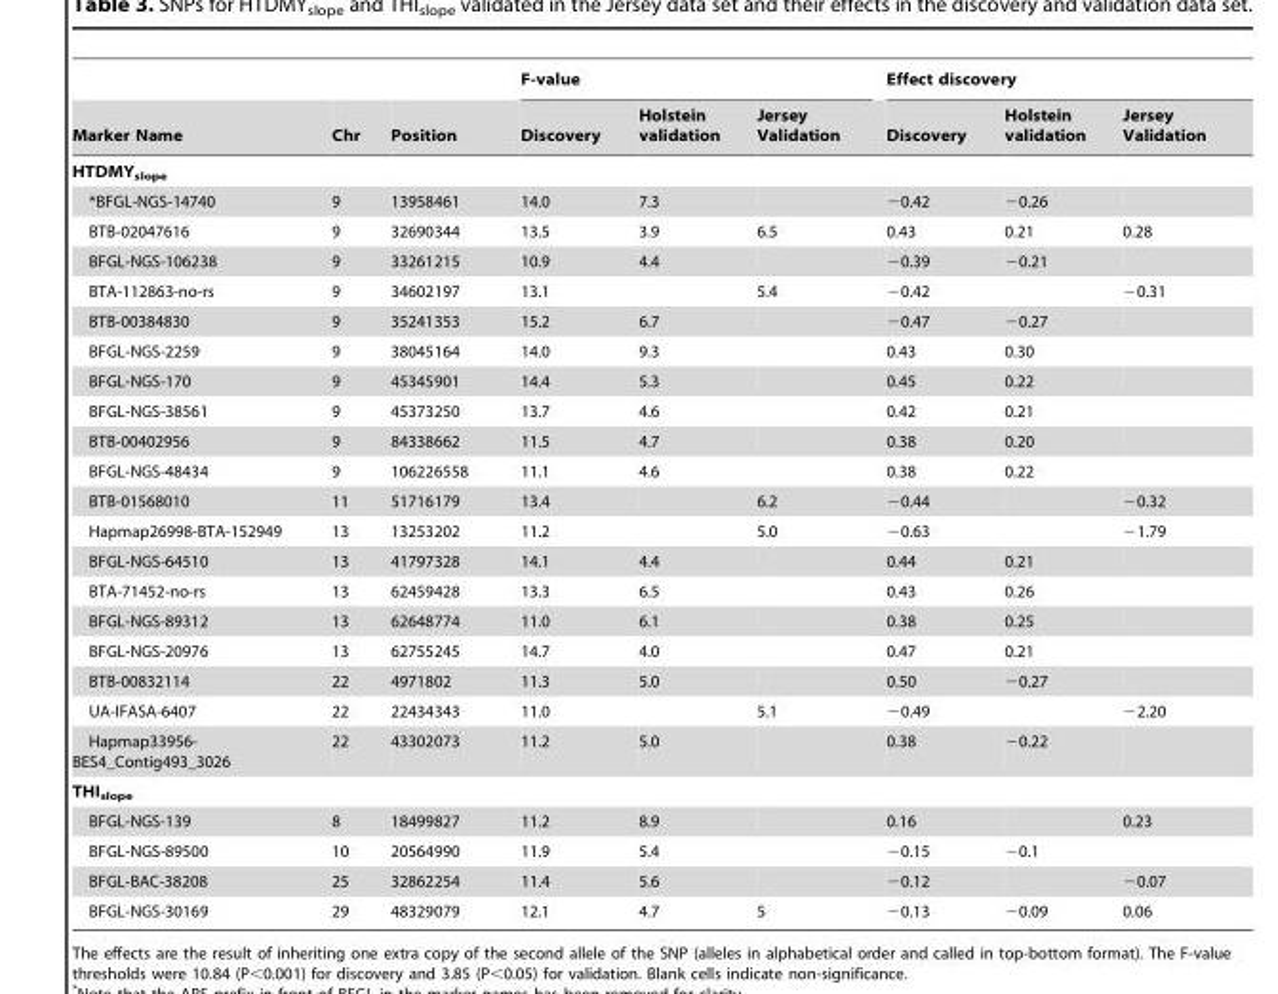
<table><thead><tr><td rowspan="2">Marker Name</td><td rowspan="2">Chr</td><td rowspan="2">Position</td><td colspan="3">F-value</td><td colspan="3">Effect discovery</td></tr><tr><td>Discovery</td><td>Holstein validation</td><td>Jersey Validation</td><td>Discovery</td><td>Holstein validation</td><td>Jersey Validation</td></tr></thead><tbody><tr><td colspan="9">HTDMY<sub>slope</sub></td></tr><tr><td>*BFGL-NGS-14740</td><td>9</td><td>13958461</td><td>14.0</td><td>7.3</td><td></td><td>−0.42</td><td>−0.26</td><td></td></tr><tr><td>BTB-02047616</td><td>9</td><td>32690344</td><td>13.5</td><td>3.9</td><td>6.5</td><td>0.43</td><td>0.21</td><td>0.28</td></tr><tr><td>BFGL-NGS-106238</td><td>9</td><td>33261215</td><td>10.9</td><td>4.4</td><td></td><td>−0.39</td><td>−0.21</td><td></td></tr><tr><td>BTA-112863-no-rs</td><td>9</td><td>34602197</td><td>13.1</td><td></td><td>5.4</td><td>−0.42</td><td></td><td>−0.31</td></tr><tr><td>BTB-00384830</td><td>9</td><td>35241353</td><td>15.2</td><td>6.7</td><td></td><td>−0.47</td><td>−0.27</td><td></td></tr><tr><td>BFGL-NGS-2259</td><td>9</td><td>38045164</td><td>14.0</td><td>9.3</td><td></td><td>0.43</td><td>0.30</td><td></td></tr><tr><td>BFGL-NGS-170</td><td>9</td><td>45345901</td><td>14.4</td><td>5.3</td><td></td><td>0.45</td><td>0.22</td><td></td></tr><tr><td>BFGL-NGS-38561</td><td>9</td><td>45373250</td><td>13.7</td><td>4.6</td><td></td><td>0.42</td><td>0.21</td><td></td></tr><tr><td>BTB-00402956</td><td>9</td><td>84338662</td><td>11.5</td><td>4.7</td><td></td><td>0.38</td><td>0.20</td><td></td></tr><tr><td>BFGL-NGS-48434</td><td>9</td><td>106226558</td><td>11.1</td><td>4.6</td><td></td><td>0.38</td><td>0.22</td><td></td></tr><tr><td>BTB-01568010</td><td>11</td><td>51716179</td><td>13.4</td><td></td><td>6.2</td><td>−0.44</td><td></td><td>−0.32</td></tr><tr><td>Hapmap26998-BTA-152949</td><td>13</td><td>13253202</td><td>11.2</td><td></td><td>5.0</td><td>−0.63</td><td></td><td>−1.79</td></tr><tr><td>BFGL-NGS-64510</td><td>13</td><td>41797328</td><td>14.1</td><td>4.4</td><td></td><td>0.44</td><td>0.21</td><td></td></tr><tr><td>BTA-71452-no-rs</td><td>13</td><td>62459428</td><td>13.3</td><td>6.5</td><td></td><td>0.43</td><td>0.26</td><td></td></tr><tr><td>BFGL-NGS-89312</td><td>13</td><td>62648774</td><td>11.0</td><td>6.1</td><td></td><td>0.38</td><td>0.25</td><td></td></tr><tr><td>BFGL-NGS-20976</td><td>13</td><td>62755245</td><td>14.7</td><td>4.0</td><td></td><td>0.47</td><td>0.21</td><td></td></tr><tr><td>BTB-00832114</td><td>22</td><td>4971802</td><td>11.3</td><td>5.0</td><td></td><td>0.50</td><td>−0.27</td><td></td></tr><tr><td>UA-IFASA-6407</td><td>22</td><td>22434343</td><td>11.0</td><td></td><td>5.1</td><td>−0.49</td><td></td><td>−2.20</td></tr><tr><td>Hapmap33956- BES4_Contig493_3026</td><td>22</td><td>43302073</td><td>11.2</td><td>5.0</td><td></td><td>0.38</td><td>−0.22</td><td></td></tr><tr><td colspan="9">THI<sub>slope</sub></td></tr><tr><td>BFGL-NGS-139</td><td>8</td><td>18499827</td><td>11.2</td><td>8.9</td><td></td><td>0.16</td><td></td><td>0.23</td></tr><tr><td>BFGL-NGS-89500</td><td>10</td><td>20564990</td><td>11.9</td><td>5.4</td><td></td><td>−0.15</td><td>−0.1</td><td></td></tr><tr><td>BFGL-BAC-38208</td><td>25</td><td>32862254</td><td>11.4</td><td>5.6</td><td></td><td>−0.12</td><td></td><td>−0.07</td></tr><tr><td>BFGL-NGS-30169</td><td>29</td><td>48329079</td><td>12.1</td><td>4.7</td><td>5</td><td>−0.13</td><td>−0.09</td><td>0.06</td></tr></tbody></table>